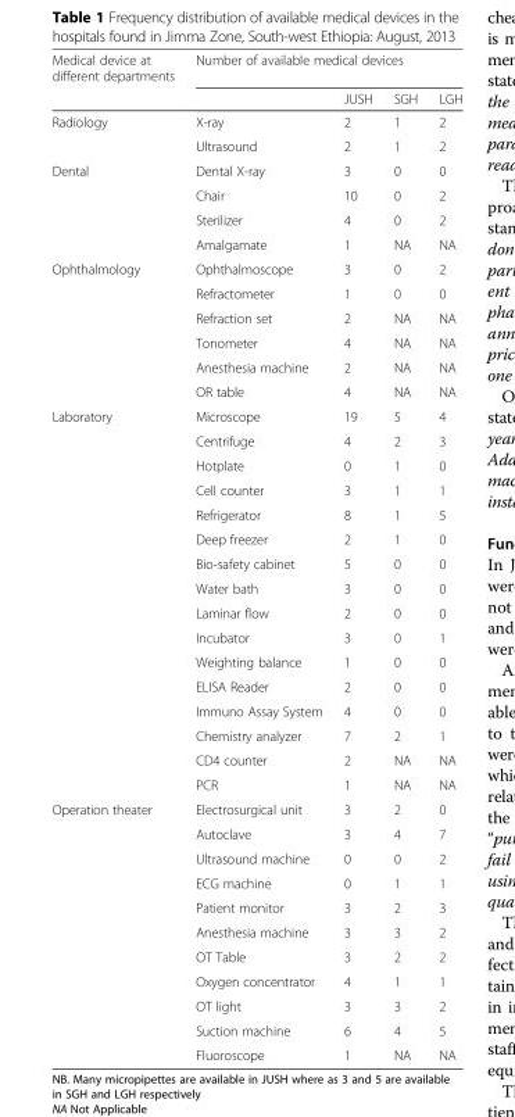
<table><thead><tr><td rowspan="2">Medical device at different departments</td><td colspan="4">Number of available medical devices</td></tr><tr><td></td><td>JUSH</td><td>SGH</td><td>LGH</td></tr></thead><tbody><tr><td rowspan="2">Radiology</td><td>X-ray</td><td>2</td><td>1</td><td>2</td></tr><tr><td>Ultrasound</td><td>2</td><td>1</td><td>2</td></tr><tr><td rowspan="4">Dental</td><td>Dental X-ray</td><td>3</td><td>0</td><td>0</td></tr><tr><td>Chair</td><td>10</td><td>0</td><td>2</td></tr><tr><td>Sterilizer</td><td>4</td><td>0</td><td>2</td></tr><tr><td>Amalgamate</td><td>1</td><td>NA</td><td>NA</td></tr><tr><td rowspan="6">Ophthalmology</td><td>Ophthalmoscope</td><td>3</td><td>0</td><td>2</td></tr><tr><td>Refractometer</td><td>1</td><td>0</td><td>0</td></tr><tr><td>Refraction set</td><td>2</td><td>NA</td><td>NA</td></tr><tr><td>Tonometer</td><td>4</td><td>NA</td><td>NA</td></tr><tr><td>Anesthesia machine</td><td>2</td><td>NA</td><td>NA</td></tr><tr><td>OR table</td><td>4</td><td>NA</td><td>NA</td></tr><tr><td rowspan="16">Laboratory</td><td>Microscope</td><td>19</td><td>5</td><td>4</td></tr><tr><td>Centrifuge</td><td>4</td><td>2</td><td>3</td></tr><tr><td>Hotplate</td><td>0</td><td>1</td><td>0</td></tr><tr><td>Cell counter</td><td>3</td><td>1</td><td>1</td></tr><tr><td>Refrigerator</td><td>8</td><td>1</td><td>5</td></tr><tr><td>Deep freezer</td><td>2</td><td>1</td><td>0</td></tr><tr><td>Bio-safety cabinet</td><td>5</td><td>0</td><td>0</td></tr><tr><td>Water bath</td><td>3</td><td>0</td><td>0</td></tr><tr><td>Laminar flow</td><td>2</td><td>0</td><td>0</td></tr><tr><td>Incubator</td><td>3</td><td>0</td><td>1</td></tr><tr><td>Weighting balance</td><td>1</td><td>0</td><td>0</td></tr><tr><td>ELISA Reader</td><td>2</td><td>0</td><td>0</td></tr><tr><td>Immuno Assay System</td><td>4</td><td>0</td><td>0</td></tr><tr><td>Chemistry analyzer</td><td>7</td><td>2</td><td>1</td></tr><tr><td>CD4 counter</td><td>2</td><td>NA</td><td>NA</td></tr><tr><td>PCR</td><td>1</td><td>NA</td><td>NA</td></tr><tr><td rowspan="11">Operation theater</td><td>Electrosurgical unit</td><td>3</td><td>2</td><td>0</td></tr><tr><td>Autoclave</td><td>3</td><td>4</td><td>7</td></tr><tr><td>Ultrasound machine</td><td>0</td><td>0</td><td>2</td></tr><tr><td>ECG machine</td><td>0</td><td>1</td><td>1</td></tr><tr><td>Patient monitor</td><td>3</td><td>2</td><td>3</td></tr><tr><td>Anesthesia machine</td><td>3</td><td>3</td><td>2</td></tr><tr><td>OT Table</td><td>3</td><td>2</td><td>2</td></tr><tr><td>Oxygen concentrator</td><td>4</td><td>1</td><td>1</td></tr><tr><td>OT light</td><td>3</td><td>3</td><td>2</td></tr><tr><td>Suction machine</td><td>6</td><td>4</td><td>5</td></tr><tr><td>Fluoroscope</td><td>1</td><td>NA</td><td>NA</td></tr></tbody></table>